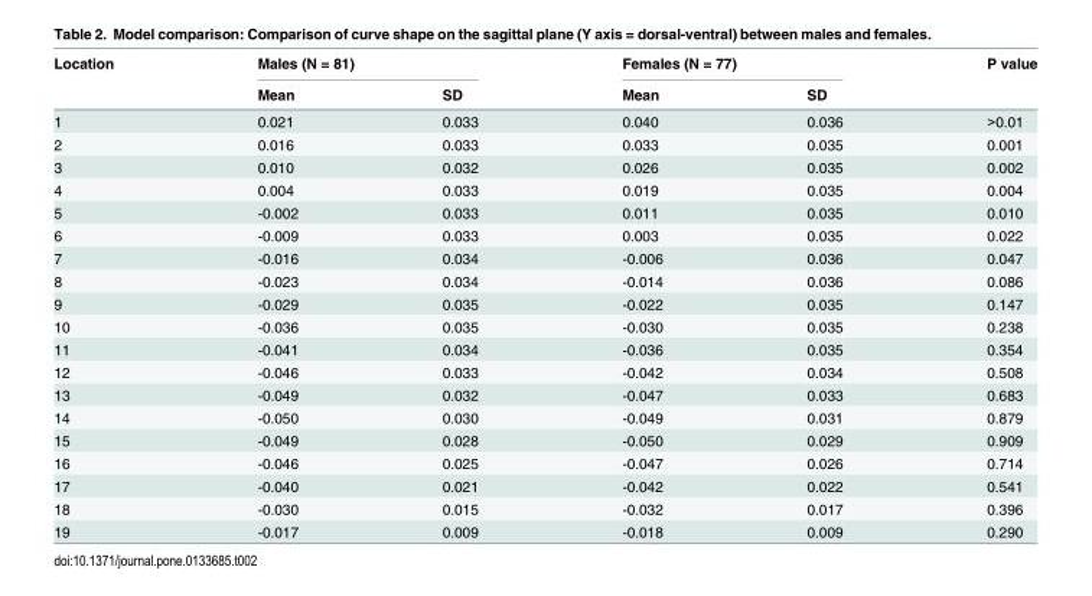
<table><thead><tr><td rowspan="2">Location</td><td colspan="2">Males (N = 81)</td><td colspan="2">Females (N = 77)</td><td rowspan="2">P value</td></tr><tr><td>Mean</td><td>SD</td><td>Mean</td><td>SD</td></tr></thead><tbody><tr><td>1</td><td>0.021</td><td>0.033</td><td>0.040</td><td>0.036</td><td>&gt;0.01</td></tr><tr><td>2</td><td>0.016</td><td>0.033</td><td>0.033</td><td>0.035</td><td>0.001</td></tr><tr><td>3</td><td>0.010</td><td>0.032</td><td>0.026</td><td>0.035</td><td>0.002</td></tr><tr><td>4</td><td>0.004</td><td>0.033</td><td>0.019</td><td>0.035</td><td>0.004</td></tr><tr><td>5</td><td>-0.002</td><td>0.033</td><td>0.011</td><td>0.035</td><td>0.010</td></tr><tr><td>6</td><td>-0.009</td><td>0.033</td><td>0.003</td><td>0.035</td><td>0.022</td></tr><tr><td>7</td><td>-0.016</td><td>0.034</td><td>-0.006</td><td>0.036</td><td>0.047</td></tr><tr><td>8</td><td>-0.023</td><td>0.034</td><td>-0.014</td><td>0.036</td><td>0.086</td></tr><tr><td>9</td><td>-0.029</td><td>0.035</td><td>-0.022</td><td>0.035</td><td>0.147</td></tr><tr><td>10</td><td>-0.036</td><td>0.035</td><td>-0.030</td><td>0.035</td><td>0.238</td></tr><tr><td>11</td><td>-0.041</td><td>0.034</td><td>-0.036</td><td>0.035</td><td>0.354</td></tr><tr><td>12</td><td>-0.046</td><td>0.033</td><td>-0.042</td><td>0.034</td><td>0.508</td></tr><tr><td>13</td><td>-0.049</td><td>0.032</td><td>-0.047</td><td>0.033</td><td>0.683</td></tr><tr><td>14</td><td>-0.050</td><td>0.030</td><td>-0.049</td><td>0.031</td><td>0.879</td></tr><tr><td>15</td><td>-0.049</td><td>0.028</td><td>-0.050</td><td>0.029</td><td>0.909</td></tr><tr><td>16</td><td>-0.046</td><td>0.025</td><td>-0.047</td><td>0.026</td><td>0.714</td></tr><tr><td>17</td><td>-0.040</td><td>0.021</td><td>-0.042</td><td>0.022</td><td>0.541</td></tr><tr><td>18</td><td>-0.030</td><td>0.015</td><td>-0.032</td><td>0.017</td><td>0.396</td></tr><tr><td>19</td><td>-0.017</td><td>0.009</td><td>-0.018</td><td>0.009</td><td>0.290</td></tr></tbody></table>